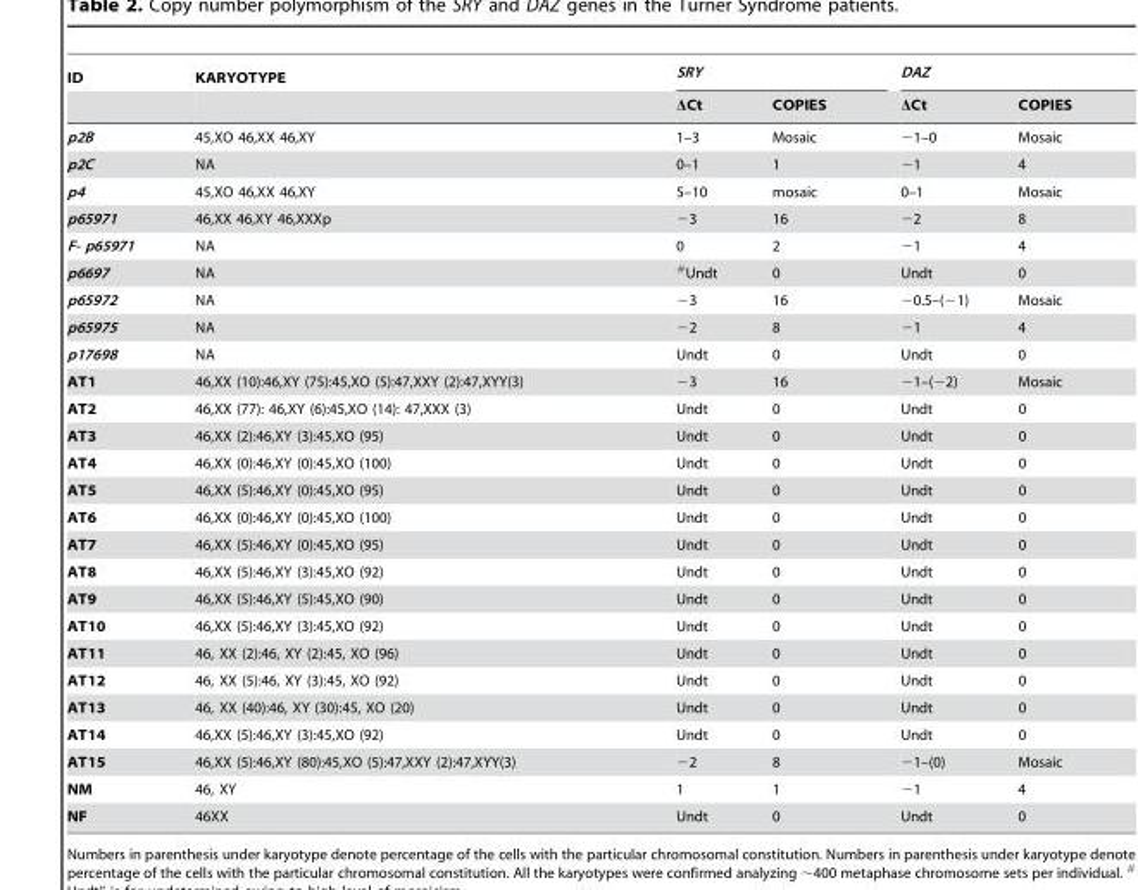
<table><thead><tr><td rowspan="2">ID</td><td rowspan="2">KARYOTYPE</td><td colspan="2">SRY</td><td colspan="2">DAZ</td></tr><tr><td>ΔCt</td><td>COPIES</td><td>ΔCt</td><td>COPIES</td></tr></thead><tbody><tr><td>p2B</td><td>45,XO 46,XX 46,XY</td><td>1–3</td><td>Mosaic</td><td>−1–0</td><td>Mosaic</td></tr><tr><td>p2C</td><td>NA</td><td>0–1</td><td>1</td><td>−1</td><td>4</td></tr><tr><td>p4</td><td>45,XO 46,XX 46,XY</td><td>5–10</td><td>mosaic</td><td>0–1</td><td>Mosaic</td></tr><tr><td>p65971</td><td>46,XX 46,XY 46,XXXp</td><td>−3</td><td>16</td><td>−2</td><td>8</td></tr><tr><td>F- p65971</td><td>NA</td><td>0</td><td>2</td><td>−1</td><td>4</td></tr><tr><td>p6697</td><td>NA</td><td><sup>#</sup>Undt</td><td>0</td><td>Undt</td><td>0</td></tr><tr><td>p65972</td><td>NA</td><td>−3</td><td>16</td><td>−0.5–(−1)</td><td>Mosaic</td></tr><tr><td>p65975</td><td>NA</td><td>−2</td><td>8</td><td>−1</td><td>4</td></tr><tr><td>p17698</td><td>NA</td><td>Undt</td><td>0</td><td>Undt</td><td>0</td></tr><tr><td>AT1</td><td>46,XX (10):46,XY (75):45,XO (5):47,XXY (2):47,XYY(3)</td><td>−3</td><td>16</td><td>−1–(−2)</td><td>Mosaic</td></tr><tr><td>AT2</td><td>46,XX (77): 46,XY (6):45,XO (14): 47,XXX (3)</td><td>Undt</td><td>0</td><td>Undt</td><td>0</td></tr><tr><td>AT3</td><td>46,XX (2):46,XY (3):45,XO (95)</td><td>Undt</td><td>0</td><td>Undt</td><td>0</td></tr><tr><td>AT4</td><td>46,XX (0):46,XY (0):45,XO (100)</td><td>Undt</td><td>0</td><td>Undt</td><td>0</td></tr><tr><td>AT5</td><td>46,XX (5):46,XY (0):45,XO (95)</td><td>Undt</td><td>0</td><td>Undt</td><td>0</td></tr><tr><td>AT6</td><td>46,XX (0):46,XY (0):45,XO (100)</td><td>Undt</td><td>0</td><td>Undt</td><td>0</td></tr><tr><td>AT7</td><td>46,XX (5):46,XY (0):45,XO (95)</td><td>Undt</td><td>0</td><td>Undt</td><td>0</td></tr><tr><td>AT8</td><td>46,XX (5):46,XY (3):45,XO (92)</td><td>Undt</td><td>0</td><td>Undt</td><td>0</td></tr><tr><td>AT9</td><td>46,XX (5):46,XY (5):45,XO (90)</td><td>Undt</td><td>0</td><td>Undt</td><td>0</td></tr><tr><td>AT10</td><td>46,XX (5):46,XY (3):45,XO (92)</td><td>Undt</td><td>0</td><td>Undt</td><td>0</td></tr><tr><td>AT11</td><td>46, XX (2):46, XY (2):45, XO (96)</td><td>Undt</td><td>0</td><td>Undt</td><td>0</td></tr><tr><td>AT12</td><td>46, XX (5):46, XY (3):45, XO (92)</td><td>Undt</td><td>0</td><td>Undt</td><td>0</td></tr><tr><td>AT13</td><td>46, XX (40):46, XY (30):45, XO (20)</td><td>Undt</td><td>0</td><td>Undt</td><td>0</td></tr><tr><td>AT14</td><td>46,XX (5):46,XY (3):45,XO (92)</td><td>Undt</td><td>0</td><td>Undt</td><td>0</td></tr><tr><td>AT15</td><td>46,XX (5):46,XY (80):45,XO (5):47,XXY (2):47,XYY(3)</td><td>−2</td><td>8</td><td>−1–(0)</td><td>Mosaic</td></tr><tr><td>NM</td><td>46, XY</td><td>1</td><td>1</td><td>−1</td><td>4</td></tr><tr><td>NF</td><td>46XX</td><td>Undt</td><td>0</td><td>Undt</td><td>0</td></tr></tbody></table>